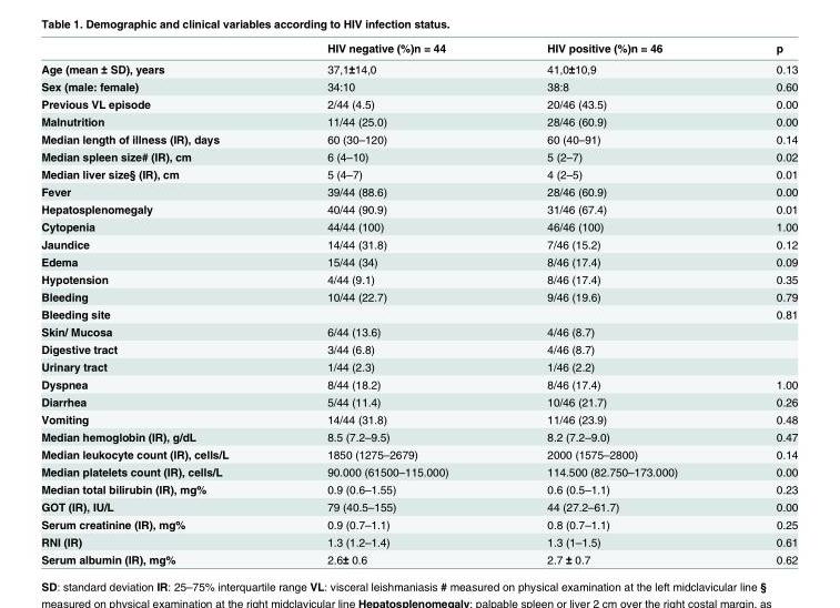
<table><thead><tr><td></td><td>HIV negative (%)n = 44</td><td>HIV positive (%)n = 46</td><td>p</td></tr></thead><tbody><tr><td>Age (mean ± SD), years</td><td>37,1±14,0</td><td>41,0±10,9</td><td>0.13</td></tr><tr><td>Sex (male: female)</td><td>34:10</td><td>38:8</td><td>0.60</td></tr><tr><td>Previous VL episode</td><td>2/44 (4.5)</td><td>20/46 (43.5)</td><td>0.00</td></tr><tr><td>Malnutrition</td><td>11/44 (25.0)</td><td>28/46 (60.9)</td><td>0.00</td></tr><tr><td>Median length of illness (IR), days</td><td>60 (30–120)</td><td>60 (40–91)</td><td>0.14</td></tr><tr><td>Median spleen size# (IR), cm</td><td>6 (4–10)</td><td>5 (2–7)</td><td>0.02</td></tr><tr><td>Median liver size§ (IR), cm</td><td>5 (4–7)</td><td>4 (2–5)</td><td>0.01</td></tr><tr><td>Fever</td><td>39/44 (88.6)</td><td>28/46 (60.9)</td><td>0.00</td></tr><tr><td>Hepatosplenomegaly</td><td>40/44 (90.9)</td><td>31/46 (67.4)</td><td>0.01</td></tr><tr><td>Cytopenia</td><td>44/44 (100)</td><td>46/46 (100)</td><td>1.00</td></tr><tr><td>Jaundice</td><td>14/44 (31.8)</td><td>7/46 (15.2)</td><td>0.12</td></tr><tr><td>Edema</td><td>15/44 (34)</td><td>8/46 (17.4)</td><td>0.09</td></tr><tr><td>Hypotension</td><td>4/44 (9.1)</td><td>8/46 (17.4)</td><td>0.35</td></tr><tr><td>Bleeding</td><td>10/44 (22.7)</td><td>9/46 (19.6)</td><td>0.79</td></tr><tr><td colspan="3">Bleeding site</td><td rowspan="4">0.81</td></tr><tr><td>Skin/ Mucosa</td><td>6/44 (13.6)</td><td>4/46 (8.7)</td></tr><tr><td>Digestive tract</td><td>3/44 (6.8)</td><td>4/46 (8.7)</td></tr><tr><td>Urinary tract</td><td>1/44 (2.3)</td><td>1/46 (2.2)</td></tr><tr><td>Dyspnea</td><td>8/44 (18.2)</td><td>8/46 (17.4)</td><td>1.00</td></tr><tr><td>Diarrhea</td><td>5/44 (11.4)</td><td>10/46 (21.7)</td><td>0.26</td></tr><tr><td>Vomiting</td><td>14/44 (31.8)</td><td>11/46 (23.9)</td><td>0.48</td></tr><tr><td>Median hemoglobin (IR), g/dL</td><td>8.5 (7.2–9.5)</td><td>8.2 (7.2–9.0)</td><td>0.47</td></tr><tr><td>Median leukocyte count (IR), cells/L</td><td>1850 (1275–2679)</td><td>2000 (1575–2800)</td><td>0.14</td></tr><tr><td>Median platelets count (IR), cells/L</td><td>90.000 (61500–115.000)</td><td>114.500 (82.750–173.000)</td><td>0.00</td></tr><tr><td>Median total bilirubin (IR), mg%</td><td>0.9 (0.6–1.55)</td><td>0.6 (0.5–1.1)</td><td>0.23</td></tr><tr><td>GOT (IR), IU/L</td><td>79 (40.5–155)</td><td>44 (27.2–61.7)</td><td>0.00</td></tr><tr><td>Serum creatinine (IR), mg%</td><td>0.9 (0.7–1.1)</td><td>0.8 (0.7–1.1)</td><td>0.25</td></tr><tr><td>RNI (IR)</td><td>1.3 (1.2–1.4)</td><td>1.3 (1–1.5)</td><td>0.61</td></tr><tr><td>Serum albumin (IR), mg%</td><td>2.6± 0.6</td><td>2.7 ± 0.7</td><td>0.62</td></tr></tbody></table>